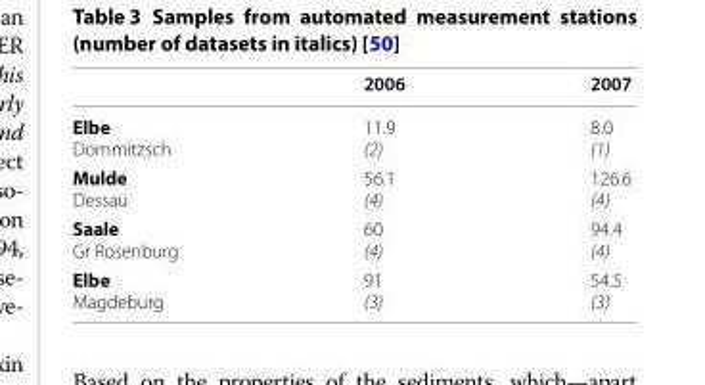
<table><thead><tr><td></td><td>2006</td><td>2007</td></tr></thead><tbody><tr><td>Elbe Dommitzsch</td><td>11.9 (2)</td><td>8.0 (1)</td></tr><tr><td>Mulde Dessau</td><td>56.1 (4)</td><td>126.6 (4)</td></tr><tr><td>Saale Gr Rosenburg</td><td>60 (4)</td><td>94.4 (4)</td></tr><tr><td>Elbe Magdeburg</td><td>91 (3)</td><td>54.5 (3)</td></tr></tbody></table>